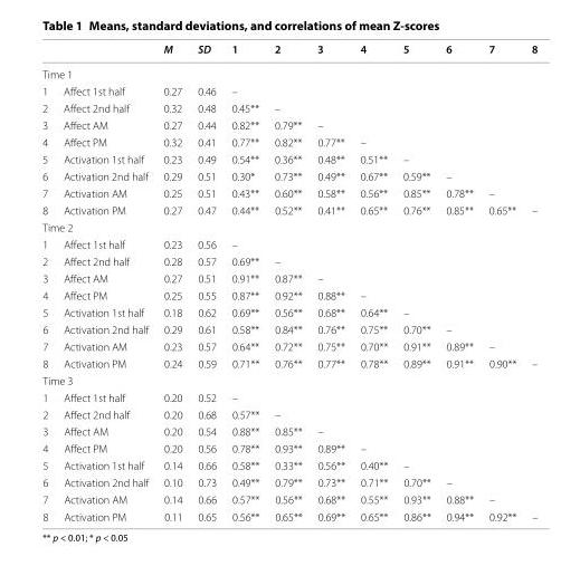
<table><thead><tr><td></td><td></td><td>M</td><td>SD</td><td>1</td><td>2</td><td>3</td><td>4</td><td>5</td><td>6</td><td>7</td><td>8</td></tr></thead><tbody><tr><td colspan="12">Time 1</td></tr><tr><td>1</td><td>Affect 1st half</td><td>0.27</td><td>0.46</td><td>–</td><td></td><td></td><td></td><td></td><td></td><td></td><td></td></tr><tr><td>2</td><td>Affect 2nd half</td><td>0.32</td><td>0.48</td><td>0.45**</td><td>–</td><td></td><td></td><td></td><td></td><td></td><td></td></tr><tr><td>3</td><td>Affect AM</td><td>0.27</td><td>0.44</td><td>0.82**</td><td>0.79**</td><td>–</td><td></td><td></td><td></td><td></td><td></td></tr><tr><td>4</td><td>Affect PM</td><td>0.32</td><td>0.41</td><td>0.77**</td><td>0.82**</td><td>0.77**</td><td>–</td><td></td><td></td><td></td><td></td></tr><tr><td>5</td><td>Activation 1st half</td><td>0.23</td><td>0.49</td><td>0.54**</td><td>0.36**</td><td>0.48**</td><td>0.51**</td><td>–</td><td></td><td></td><td></td></tr><tr><td>6</td><td>Activation 2nd half</td><td>0.29</td><td>0.51</td><td>0.30*</td><td>0.73**</td><td>0.49**</td><td>0.67**</td><td>0.59**</td><td>–</td><td></td><td></td></tr><tr><td>7</td><td>Activation AM</td><td>0.25</td><td>0.51</td><td>0.43**</td><td>0.60**</td><td>0.58**</td><td>0.56**</td><td>0.85**</td><td>0.78**</td><td>–</td><td></td></tr><tr><td>8</td><td>Activation PM</td><td>0.27</td><td>0.47</td><td>0.44**</td><td>0.52**</td><td>0.41**</td><td>0.65**</td><td>0.76**</td><td>0.85**</td><td>0.65**</td><td>–</td></tr><tr><td colspan="12">Time 2</td></tr><tr><td>1</td><td>Affect 1st half</td><td>0.23</td><td>0.56</td><td>–</td><td></td><td></td><td></td><td></td><td></td><td></td><td></td></tr><tr><td>2</td><td>Affect 2nd half</td><td>0.28</td><td>0.57</td><td>0.69**</td><td>–</td><td></td><td></td><td></td><td></td><td></td><td></td></tr><tr><td>3</td><td>Affect AM</td><td>0.27</td><td>0.51</td><td>0.91**</td><td>0.87**</td><td>–</td><td></td><td></td><td></td><td></td><td></td></tr><tr><td>4</td><td>Affect PM</td><td>0.25</td><td>0.55</td><td>0.87**</td><td>0.92**</td><td>0.88**</td><td>–</td><td></td><td></td><td></td><td></td></tr><tr><td>5</td><td>Activation 1st half</td><td>0.18</td><td>0.62</td><td>0.69**</td><td>0.56**</td><td>0.68**</td><td>0.64**</td><td>–</td><td></td><td></td><td></td></tr><tr><td>6</td><td>Activation 2nd half</td><td>0.29</td><td>0.61</td><td>0.58**</td><td>0.84**</td><td>0.76**</td><td>0.75**</td><td>0.70**</td><td>–</td><td></td><td></td></tr><tr><td>7</td><td>Activation AM</td><td>0.23</td><td>0.57</td><td>0.64**</td><td>0.72**</td><td>0.75**</td><td>0.70**</td><td>0.91**</td><td>0.89**</td><td>–</td><td></td></tr><tr><td>8</td><td>Activation PM</td><td>0.24</td><td>0.59</td><td>0.71**</td><td>0.76**</td><td>0.77**</td><td>0.78**</td><td>0.89**</td><td>0.91**</td><td>0.90**</td><td>–</td></tr><tr><td colspan="12">Time 3</td></tr><tr><td>1</td><td>Affect 1st half</td><td>0.20</td><td>0.52</td><td>–</td><td></td><td></td><td></td><td></td><td></td><td></td><td></td></tr><tr><td>2</td><td>Affect 2nd half</td><td>0.20</td><td>0.68</td><td>0.57**</td><td>–</td><td></td><td></td><td></td><td></td><td></td><td></td></tr><tr><td>3</td><td>Affect AM</td><td>0.20</td><td>0.54</td><td>0.88**</td><td>0.85**</td><td>–</td><td></td><td></td><td></td><td></td><td></td></tr><tr><td>4</td><td>Affect PM</td><td>0.20</td><td>0.56</td><td>0.78**</td><td>0.93**</td><td>0.89**</td><td>–</td><td></td><td></td><td></td><td></td></tr><tr><td>5</td><td>Activation 1st half</td><td>0.14</td><td>0.66</td><td>0.58**</td><td>0.33**</td><td>0.56**</td><td>0.40**</td><td>–</td><td></td><td></td><td></td></tr><tr><td>6</td><td>Activation 2nd half</td><td>0.10</td><td>0.73</td><td>0.49**</td><td>0.79**</td><td>0.73**</td><td>0.71**</td><td>0.70**</td><td>–</td><td></td><td></td></tr><tr><td>7</td><td>Activation AM</td><td>0.14</td><td>0.66</td><td>0.57**</td><td>0.56**</td><td>0.68**</td><td>0.55**</td><td>0.93**</td><td>0.88**</td><td>–</td><td></td></tr><tr><td>8</td><td>Activation PM</td><td>0.11</td><td>0.65</td><td>0.56**</td><td>0.65**</td><td>0.69**</td><td>0.65**</td><td>0.86**</td><td>0.94**</td><td>0.92**</td><td>–</td></tr></tbody></table>